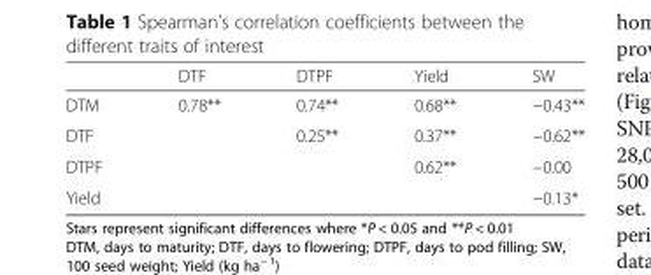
<table><thead><tr><td></td><td>DTF</td><td>DTPF</td><td>Yield</td><td>SW</td></tr></thead><tbody><tr><td>DTM</td><td>0.78**</td><td>0.74**</td><td>0.68**</td><td>−0.43**</td></tr><tr><td>DTF</td><td></td><td>0.25**</td><td>0.37**</td><td>−0.62**</td></tr><tr><td>DTPF</td><td></td><td></td><td>0.62**</td><td>−0.00</td></tr><tr><td>Yield</td><td></td><td></td><td></td><td>−0.13*</td></tr></tbody></table>